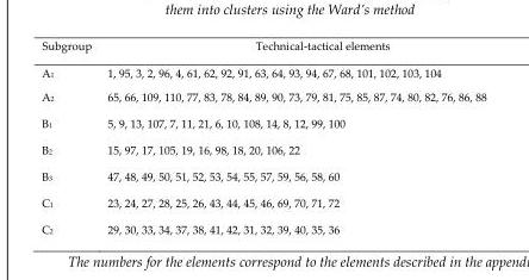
<table><thead><tr><td>Subgroup</td><td>Technical-tactical elements</td></tr></thead><tbody><tr><td>A<sub>1</sub></td><td>1, 95, 3, 2, 96, 4, 61, 62, 92, 91, 63, 64, 93, 94, 67, 68, 101, 102, 103, 104</td></tr><tr><td>A<sub>2</sub></td><td>65, 66, 109, 110, 77, 83, 78, 84, 89, 90, 73, 79, 81, 75, 85, 87, 74, 80, 82, 76, 86, 88</td></tr><tr><td>B<sub>1</sub></td><td>5, 9, 13, 107, 7, 11, 21, 6, 10, 108, 14, 8, 12, 99, 100</td></tr><tr><td>B<sub>2</sub></td><td>15, 97, 17, 105, 19, 16, 98, 18, 20, 106, 22</td></tr><tr><td>B<sub>3</sub></td><td>47, 48, 49, 50, 51, 52, 53, 54, 55, 57, 59, 56, 58, 60</td></tr><tr><td>C<sub>1</sub></td><td>23, 24, 27, 28, 25, 26, 43, 44, 45, 46, 69, 70, 71, 72</td></tr><tr><td>C<sub>2</sub></td><td>29, 30, 33, 34, 37, 38, 41, 42, 31, 32, 39, 40, 35, 36</td></tr></tbody></table>